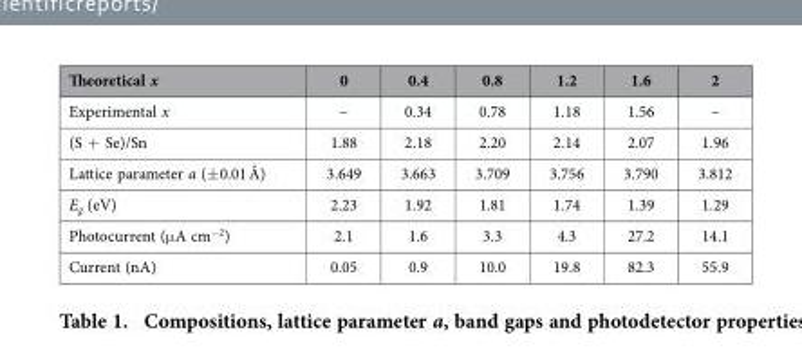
<table><thead><tr><td>Theoretical x</td><td>0</td><td>0.4</td><td>0.8</td><td>1.2</td><td>1.6</td><td>2</td></tr></thead><tbody><tr><td>Experimental x</td><td>–</td><td>0.34</td><td>0.78</td><td>1.18</td><td>1.56</td><td>–</td></tr><tr><td>(S + Se)/Sn</td><td>1.88</td><td>2.18</td><td>2.20</td><td>2.14</td><td>2.07</td><td>1.96</td></tr><tr><td>Lattice parameter a (± 0.01 Å)</td><td>3.649</td><td>3.663</td><td>3.709</td><td>3.756</td><td>3.790</td><td>3.812</td></tr><tr><td>E<sub>g</sub> (eV)</td><td>2.23</td><td>1.92</td><td>1.81</td><td>1.74</td><td>1.39</td><td>1.29</td></tr><tr><td>Photocurrent (μ A cm<sup>−2</sup>)</td><td>2.1</td><td>1.6</td><td>3.3</td><td>4.3</td><td>27.2</td><td>14.1</td></tr><tr><td>Current (nA)</td><td>0.05</td><td>0.9</td><td>10.0</td><td>19.8</td><td>82.3</td><td>55.9</td></tr></tbody></table>